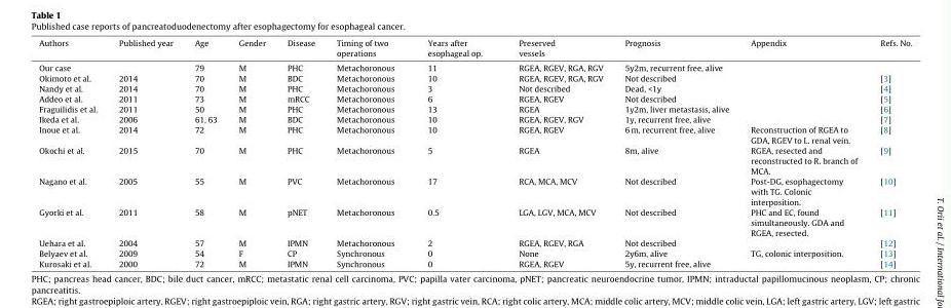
<table><thead><tr><td>Authors</td><td>Published year</td><td>Age</td><td>Gender</td><td>Disease</td><td>Timing of two operations</td><td>Years after esophageal op.</td><td>Preserved vessels</td><td>Prognosis</td><td>Appendix</td><td>Refs. No.</td></tr></thead><tbody><tr><td>Our case</td><td></td><td>79</td><td>M</td><td>PHC</td><td>Metachoronous</td><td>11</td><td>RGEA, RGEV, RGA, RGV</td><td>5y2m, recurrent free, alive</td><td></td><td></td></tr><tr><td>Okimoto et al.</td><td>2014</td><td>70</td><td>M</td><td>BDC</td><td>Metachoronous</td><td>10</td><td>RGEA, RGEV, RGA, RGV</td><td>Not described</td><td></td><td>[3]</td></tr><tr><td>Nandy et al.</td><td>2014</td><td>70</td><td>M</td><td>PHC</td><td>Metachoronous</td><td>3</td><td>Not described</td><td>Dead, &lt;1y</td><td></td><td>[4]</td></tr><tr><td>Addeo et al.</td><td>2011</td><td>73</td><td>M</td><td>mRCC</td><td>Metachoronous</td><td>6</td><td>RGEA, RGEV</td><td>Not described</td><td></td><td>[5]</td></tr><tr><td>Fraguilidis et al.</td><td>2011</td><td>50</td><td>M</td><td>PHC</td><td>Metachoronous</td><td>13</td><td>RGEA</td><td>1y2m, liver metastasis, alive</td><td></td><td>[6]</td></tr><tr><td>Ikeda et al.</td><td>2006</td><td>61, 63</td><td>M</td><td>BDC</td><td>Metachoronous</td><td>10</td><td>RGEA, RGEV, RGV</td><td>1y, recurrent free, alive</td><td></td><td>[7]</td></tr><tr><td>Inoue et al.</td><td>2014</td><td>72</td><td>M</td><td>PHC</td><td>Metachoronous</td><td>10</td><td>RGEA, RGEV</td><td>6 m, recurrent free, alive</td><td>Reconstruction of RGEA to GDA, RGEV to L. renal vein.</td><td>[8]</td></tr><tr><td>Okochi et al.</td><td>2015</td><td>70</td><td>M</td><td>PHC</td><td>Metachoronous</td><td>5</td><td>RGEA</td><td>8m, alive</td><td>RGEA, resected and reconstructed to R. branch of MCA.</td><td>[9]</td></tr><tr><td>Nagano et al.</td><td>2005</td><td>55</td><td>M</td><td>PVC</td><td>Metachoronous</td><td>17</td><td>RCA, MCA, MCV</td><td>Not described</td><td>Post-DG, esophagectomy with TG. Colonic interposition.</td><td>[10]</td></tr><tr><td>Gyorki et al.</td><td>2011</td><td>58</td><td>M</td><td>pNET</td><td>Metachoronous</td><td>0.5</td><td>LGA, LGV, MCA, MCV</td><td>Not described</td><td>PHC and EC, found simultaneously. GDA and RGEA, resected.</td><td>[11]</td></tr><tr><td>Uehara et al.</td><td>2004</td><td>57</td><td>M</td><td>IPMN</td><td>Metachoronous</td><td>2</td><td>RGEA, RGEV, RGA</td><td>Not described</td><td></td><td>[12]</td></tr><tr><td>Belyaev et al.</td><td>2009</td><td>54</td><td>F</td><td>CP</td><td>Synchronous</td><td>0</td><td>None</td><td>2y6m, alive</td><td>TG, colonic interposition.</td><td>[13]</td></tr><tr><td>Kurosaki et al.</td><td>2000</td><td>72</td><td>M</td><td>IPMN</td><td>Synchronous</td><td>0</td><td>RGEA, RGEV</td><td>5y, recurrent free, alive</td><td></td><td>[14]</td></tr></tbody></table>